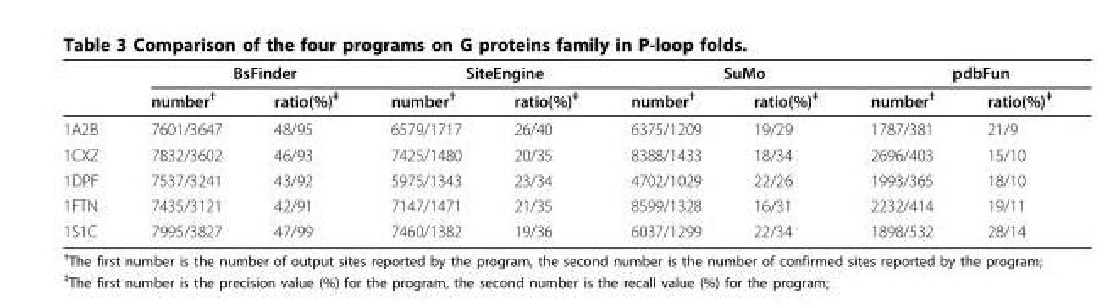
<table><thead><tr><td rowspan="2"></td><td colspan="2">BsFinder</td><td colspan="2">SiteEngine</td><td colspan="2">SuMo</td><td colspan="2">pdbFun</td></tr><tr><td>number<sup>†</sup></td><td>ratio(%)<sup>‡</sup></td><td>number<sup>†</sup></td><td>ratio(%)<sup>‡</sup></td><td>number<sup>†</sup></td><td>ratio(%)<sup>‡</sup></td><td>number<sup>†</sup></td><td>ratio(%)<sup>‡</sup></td></tr></thead><tbody><tr><td>1A2B</td><td>7601/3647</td><td>48/95</td><td>6579/1717</td><td>26/40</td><td>6375/1209</td><td>19/29</td><td>1787/381</td><td>21/9</td></tr><tr><td>1CXZ</td><td>7832/3602</td><td>46/93</td><td>7425/1480</td><td>20/35</td><td>8388/1433</td><td>18/34</td><td>2696/403</td><td>15/10</td></tr><tr><td>1DPF</td><td>7537/3241</td><td>43/92</td><td>5975/1343</td><td>23/34</td><td>4702/1029</td><td>22/26</td><td>1993/365</td><td>18/10</td></tr><tr><td>1FTN</td><td>7435/3121</td><td>42/91</td><td>7147/1471</td><td>21/35</td><td>8599/1328</td><td>16/31</td><td>2232/414</td><td>19/11</td></tr><tr><td>1S1C</td><td>7995/3827</td><td>47/99</td><td>7460/1382</td><td>19/36</td><td>6037/1299</td><td>22/34</td><td>1898/532</td><td>28/14</td></tr></tbody></table>